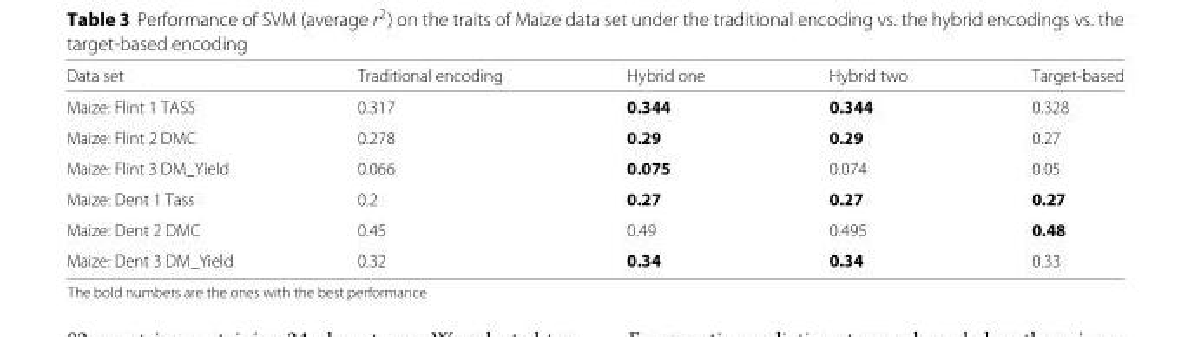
<table><thead><tr><td>Data set</td><td>Traditional encoding</td><td>Hybrid one</td><td>Hybrid two</td><td>Target-based</td></tr></thead><tbody><tr><td>Maize: Flint 1 TASS</td><td>0.317</td><td>0.344</td><td>0.344</td><td>0.328</td></tr><tr><td>Maize: Flint 2 DMC</td><td>0.278</td><td>0.29</td><td>0.29</td><td>0.27</td></tr><tr><td>Maize: Flint 3 DM_Yield</td><td>0.066</td><td>0.075</td><td>0.074</td><td>0.05</td></tr><tr><td>Maize: Dent 1 Tass</td><td>0.2</td><td>0.27</td><td>0.27</td><td>0.27</td></tr><tr><td>Maize: Dent 2 DMC</td><td>0.45</td><td>0.49</td><td>0.495</td><td>0.48</td></tr><tr><td>Maize: Dent 3 DM_Yield</td><td>0.32</td><td>0.34</td><td>0.34</td><td>0.33</td></tr></tbody></table>